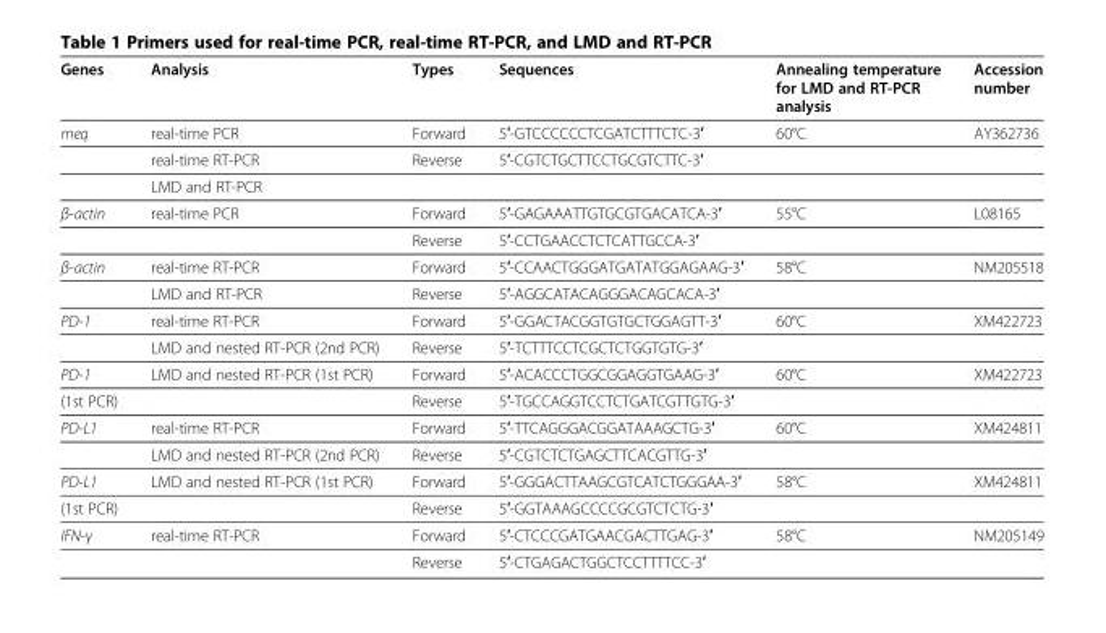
<table><thead><tr><td>Genes</td><td>Analysis</td><td>Types</td><td>Sequences</td><td>Annealing temperature for LMD and RT-PCR analysis</td><td>Accession number</td></tr></thead><tbody><tr><td rowspan="3">meq</td><td>real-time PCR</td><td>Forward</td><td>5′-GTCCCCCCTCGATCTTTCTC-3′</td><td>60°C</td><td>AY362736</td></tr><tr><td>real-time RT-PCR</td><td>Reverse</td><td>5′-CGTCTGCTTCCTGCGTCTTC-3′</td><td></td><td></td></tr><tr><td>LMD and RT-PCR</td><td></td><td></td><td></td><td></td></tr><tr><td rowspan="2">β-actin</td><td>real-time PCR</td><td>Forward</td><td>5′-GAGAAATTGTGCGTGACATCA-3′</td><td>55°C</td><td>L08165</td></tr><tr><td></td><td>Reverse</td><td>5′-CCTGAACCTCTCATTGCCA-3′</td><td></td><td></td></tr><tr><td rowspan="2">β-actin</td><td>real-time RT-PCR</td><td>Forward</td><td>5′-CCAACTGGGATGATATGGAGAAG-3′</td><td>58°C</td><td>NM205518</td></tr><tr><td>LMD and RT-PCR</td><td>Reverse</td><td>5′-AGGCATACAGGGACAGCACA-3′</td><td></td><td></td></tr><tr><td rowspan="2">PD-1</td><td>real-time RT-PCR</td><td>Forward</td><td>5′-GGACTACGGTGTGCTGGAGTT-3′</td><td>60°C</td><td>XM422723</td></tr><tr><td>LMD and nested RT-PCR (2nd PCR)</td><td>Reverse</td><td>5′-TCTTTCCTCGCTCTGGTGTG-3′</td><td></td><td></td></tr><tr><td>PD-1</td><td>LMD and nested RT-PCR (1st PCR)</td><td>Forward</td><td>5′-ACACCCTGGCGGAGGTGAAG-3′</td><td>60°C</td><td>XM422723</td></tr><tr><td>(1st PCR)</td><td></td><td>Reverse</td><td>5′-TGCCAGGTCCTCTGATCGTTGTG-3′</td><td></td><td></td></tr><tr><td rowspan="2">PD-L1</td><td>real-time RT-PCR</td><td>Forward</td><td>5′-TTCAGGGACGGATAAAGCTG-3′</td><td>60°C</td><td>XM424811</td></tr><tr><td>LMD and nested RT-PCR (2nd PCR)</td><td>Reverse</td><td>5′-CGTCTCTGAGCTTCACGTTG-3′</td><td></td><td></td></tr><tr><td>PD-L1</td><td>LMD and nested RT-PCR (1st PCR)</td><td>Forward</td><td>5′-GGGACTTAAGCGTCATCTGGGAA-3′</td><td>58°C</td><td>XM424811</td></tr><tr><td>(1st PCR)</td><td></td><td>Reverse</td><td>5′-GGTAAAGCCCCGCGTCTCTG-3′</td><td></td><td></td></tr><tr><td rowspan="2">IFN-γ</td><td>real-time RT-PCR</td><td>Forward</td><td>5′-CTCCCGATGAACGACTTGAG-3′</td><td>58°C</td><td>NM205149</td></tr><tr><td></td><td>Reverse</td><td>5′-CTGAGACTGGCTCCTTTTCC-3′</td><td></td><td></td></tr></tbody></table>